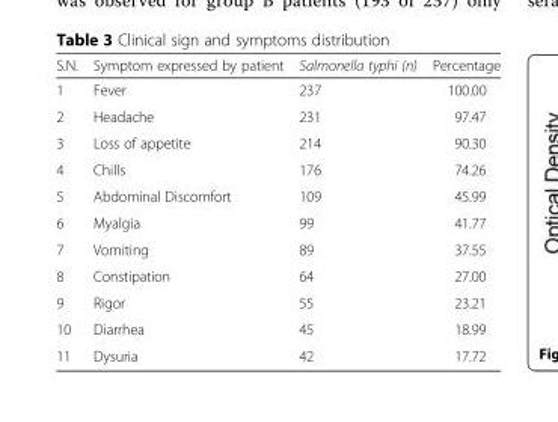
<table><thead><tr><td>S.N.</td><td>Symptom expressed by patient</td><td>Salmonella typhi (n)</td><td>Percentage</td></tr></thead><tbody><tr><td>1</td><td>Fever</td><td>237</td><td>100.00</td></tr><tr><td>2</td><td>Headache</td><td>231</td><td>97.47</td></tr><tr><td>3</td><td>Loss of appetite</td><td>214</td><td>90.30</td></tr><tr><td>4</td><td>Chills</td><td>176</td><td>74.26</td></tr><tr><td>5</td><td>Abdominal Discomfort</td><td>109</td><td>45.99</td></tr><tr><td>6</td><td>Myalgia</td><td>99</td><td>41.77</td></tr><tr><td>7</td><td>Vomiting</td><td>89</td><td>37.55</td></tr><tr><td>8</td><td>Constipation</td><td>64</td><td>27.00</td></tr><tr><td>9</td><td>Rigor</td><td>55</td><td>23.21</td></tr><tr><td>10</td><td>Diarrhea</td><td>45</td><td>18.99</td></tr><tr><td>11</td><td>Dysuria</td><td>42</td><td>17.72</td></tr></tbody></table>